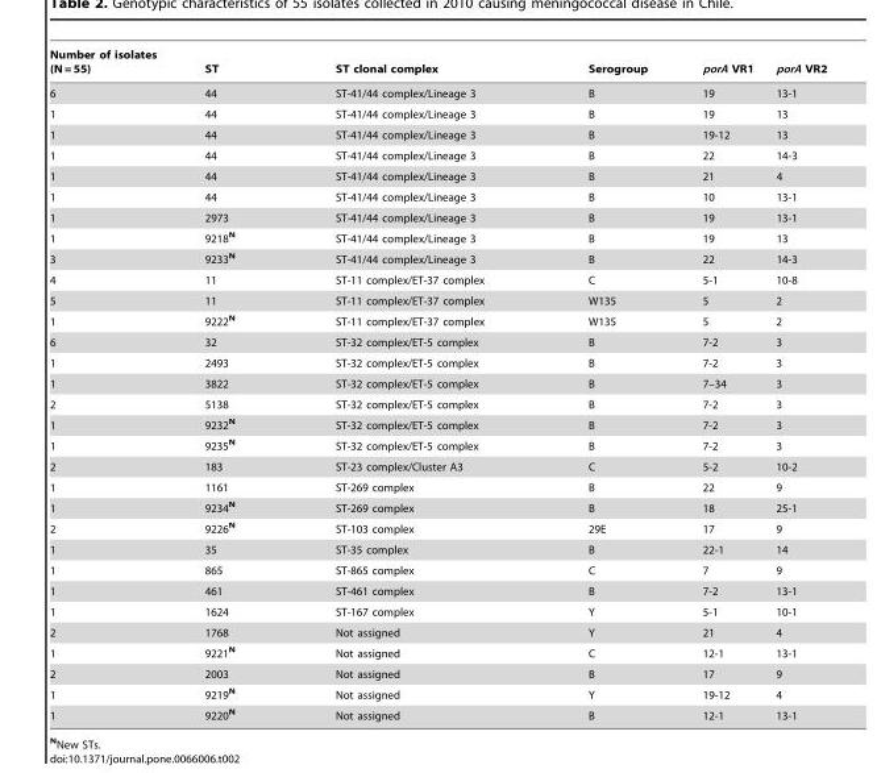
<table><thead><tr><td>Number of isolates (N = 55)</td><td>ST</td><td>ST clonal complex</td><td>Serogroup</td><td>porA VR1</td><td>porA VR2</td></tr></thead><tbody><tr><td>6</td><td>44</td><td>ST-41/44 complex/Lineage 3</td><td>B</td><td>19</td><td>13-1</td></tr><tr><td>1</td><td>44</td><td>ST-41/44 complex/Lineage 3</td><td>B</td><td>19</td><td>13</td></tr><tr><td>1</td><td>44</td><td>ST-41/44 complex/Lineage 3</td><td>B</td><td>19-12</td><td>13</td></tr><tr><td>1</td><td>44</td><td>ST-41/44 complex/Lineage 3</td><td>B</td><td>22</td><td>14-3</td></tr><tr><td>1</td><td>44</td><td>ST-41/44 complex/Lineage 3</td><td>B</td><td>21</td><td>4</td></tr><tr><td>1</td><td>44</td><td>ST-41/44 complex/Lineage 3</td><td>B</td><td>10</td><td>13-1</td></tr><tr><td>1</td><td>2973</td><td>ST-41/44 complex/Lineage 3</td><td>B</td><td>19</td><td>13-1</td></tr><tr><td>1</td><td>9218<sup>N</sup></td><td>ST-41/44 complex/Lineage 3</td><td>B</td><td>19</td><td>13</td></tr><tr><td>3</td><td>9233<sup>N</sup></td><td>ST-41/44 complex/Lineage 3</td><td>B</td><td>22</td><td>14-3</td></tr><tr><td>4</td><td>11</td><td>ST-11 complex/ET-37 complex</td><td>C</td><td>5-1</td><td>10-8</td></tr><tr><td>5</td><td>11</td><td>ST-11 complex/ET-37 complex</td><td>W135</td><td>5</td><td>2</td></tr><tr><td>1</td><td>9222<sup>N</sup></td><td>ST-11 complex/ET-37 complex</td><td>W135</td><td>5</td><td>2</td></tr><tr><td>6</td><td>32</td><td>ST-32 complex/ET-5 complex</td><td>B</td><td>7-2</td><td>3</td></tr><tr><td>1</td><td>2493</td><td>ST-32 complex/ET-5 complex</td><td>B</td><td>7-2</td><td>3</td></tr><tr><td>1</td><td>3822</td><td>ST-32 complex/ET-5 complex</td><td>B</td><td>7–34</td><td>3</td></tr><tr><td>2</td><td>5138</td><td>ST-32 complex/ET-5 complex</td><td>B</td><td>7-2</td><td>3</td></tr><tr><td>1</td><td>9232<sup>N</sup></td><td>ST-32 complex/ET-5 complex</td><td>B</td><td>7-2</td><td>3</td></tr><tr><td>1</td><td>9235<sup>N</sup></td><td>ST-32 complex/ET-5 complex</td><td>B</td><td>7-2</td><td>3</td></tr><tr><td>2</td><td>183</td><td>ST-23 complex/Cluster A3</td><td>C</td><td>5-2</td><td>10-2</td></tr><tr><td>1</td><td>1161</td><td>ST-269 complex</td><td>B</td><td>22</td><td>9</td></tr><tr><td>1</td><td>9234<sup>N</sup></td><td>ST-269 complex</td><td>B</td><td>18</td><td>25-1</td></tr><tr><td>2</td><td>9226<sup>N</sup></td><td>ST-103 complex</td><td>29E</td><td>17</td><td>9</td></tr><tr><td>1</td><td>35</td><td>ST-35 complex</td><td>B</td><td>22-1</td><td>14</td></tr><tr><td>1</td><td>865</td><td>ST-865 complex</td><td>C</td><td>7</td><td>9</td></tr><tr><td>1</td><td>461</td><td>ST-461 complex</td><td>B</td><td>7-2</td><td>13-1</td></tr><tr><td>1</td><td>1624</td><td>ST-167 complex</td><td>Y</td><td>5-1</td><td>10-1</td></tr><tr><td>2</td><td>1768</td><td>Not assigned</td><td>Y</td><td>21</td><td>4</td></tr><tr><td>1</td><td>9221<sup>N</sup></td><td>Not assigned</td><td>C</td><td>12-1</td><td>13-1</td></tr><tr><td>2</td><td>2003</td><td>Not assigned</td><td>B</td><td>17</td><td>9</td></tr><tr><td>1</td><td>9219<sup>N</sup></td><td>Not assigned</td><td>Y</td><td>19-12</td><td>4</td></tr><tr><td>1</td><td>9220<sup>N</sup></td><td>Not assigned</td><td>B</td><td>12-1</td><td>13-1</td></tr></tbody></table>